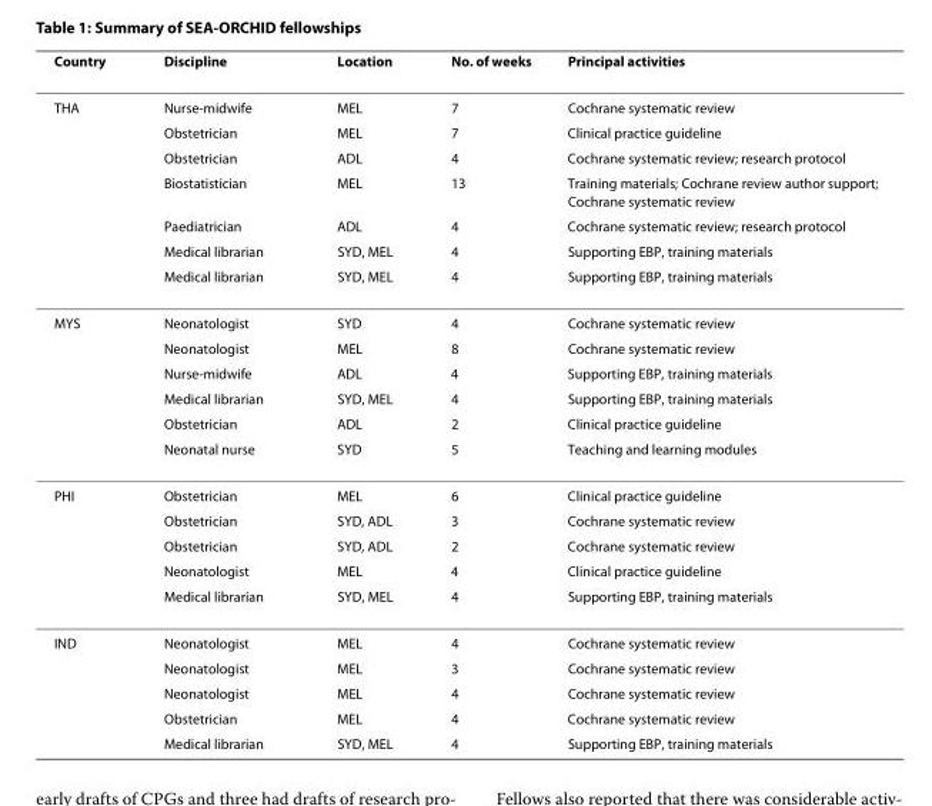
<table><thead><tr><td>Country</td><td>Discipline</td><td>Location</td><td>No. of weeks</td><td>Principal activities</td></tr></thead><tbody><tr><td rowspan="7">THA</td><td>Nurse-midwife</td><td>MEL</td><td>7</td><td>Cochrane systematic review</td></tr><tr><td>Obstetrician</td><td>MEL</td><td>7</td><td>Clinical practice guideline</td></tr><tr><td>Obstetrician</td><td>ADL</td><td>4</td><td>Cochrane systematic review; research protocol</td></tr><tr><td>Biostatistician</td><td>MEL</td><td>13</td><td>Training materials; Cochrane review author support; Cochrane systematic review</td></tr><tr><td>Paediatrician</td><td>ADL</td><td>4</td><td>Cochrane systematic review; research protocol</td></tr><tr><td>Medical librarian</td><td>SYD, MEL</td><td>4</td><td>Supporting EBP, training materials</td></tr><tr><td>Medical librarian</td><td>SYD, MEL</td><td>4</td><td>Supporting EBP, training materials</td></tr><tr><td rowspan="6">MYS</td><td>Neonatologist</td><td>SYD</td><td>4</td><td>Cochrane systematic review</td></tr><tr><td>Neonatologist</td><td>MEL</td><td>8</td><td>Cochrane systematic review</td></tr><tr><td>Nurse-midwife</td><td>ADL</td><td>4</td><td>Supporting EBP, training materials</td></tr><tr><td>Medical librarian</td><td>SYD, MEL</td><td>4</td><td>Supporting EBP, training materials</td></tr><tr><td>Obstetrician</td><td>ADL</td><td>2</td><td>Clinical practice guideline</td></tr><tr><td>Neonatal nurse</td><td>SYD</td><td>5</td><td>Teaching and learning modules</td></tr><tr><td rowspan="5">PHI</td><td>Obstetrician</td><td>MEL</td><td>6</td><td>Clinical practice guideline</td></tr><tr><td>Obstetrician</td><td>SYD, ADL</td><td>3</td><td>Cochrane systematic review</td></tr><tr><td>Obstetrician</td><td>SYD, ADL</td><td>2</td><td>Cochrane systematic review</td></tr><tr><td>Neonatologist</td><td>MEL</td><td>4</td><td>Clinical practice guideline</td></tr><tr><td>Medical librarian</td><td>SYD, MEL</td><td>4</td><td>Supporting EBP, training materials</td></tr><tr><td rowspan="5">IND</td><td>Neonatologist</td><td>MEL</td><td>4</td><td>Cochrane systematic review</td></tr><tr><td>Neonatologist</td><td>MEL</td><td>3</td><td>Cochrane systematic review</td></tr><tr><td>Neonatologist</td><td>MEL</td><td>4</td><td>Cochrane systematic review</td></tr><tr><td>Obstetrician</td><td>MEL</td><td>4</td><td>Cochrane systematic review</td></tr><tr><td>Medical librarian</td><td>SYD, MEL</td><td>4</td><td>Supporting EBP, training materials</td></tr></tbody></table>